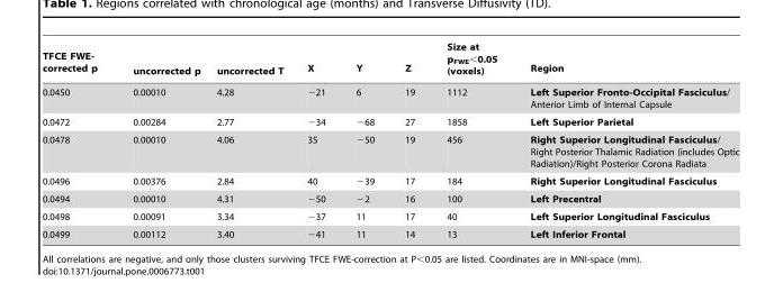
<table><thead><tr><td>TFCE FWE- corrected p</td><td>uncorrected p</td><td>uncorrected T</td><td>X</td><td>Y</td><td>Z</td><td>Size at p<sub>FWE</sub>&lt;0.05 (voxels)</td><td>Region</td></tr></thead><tbody><tr><td>0.0450</td><td>0.00010</td><td>4.28</td><td>−21</td><td>6</td><td>19</td><td>1112</td><td>Left Superior Fronto-Occipital Fasciculus/ Anterior Limb of Internal Capsule</td></tr><tr><td>0.0472</td><td>0.00284</td><td>2.77</td><td>−34</td><td>−68</td><td>27</td><td>1858</td><td>Left Superior Parietal</td></tr><tr><td>0.0478</td><td>0.00010</td><td>4.06</td><td>35</td><td>−50</td><td>19</td><td>456</td><td>Right Superior Longitudinal Fasciculus/ Right Posterior Thalamic Radiation (includes Optic Radiation)/Right Posterior Corona Radiata</td></tr><tr><td>0.0496</td><td>0.00376</td><td>2.84</td><td>40</td><td>−39</td><td>17</td><td>184</td><td>Right Superior Longitudinal Fasciculus</td></tr><tr><td>0.0494</td><td>0.00010</td><td>4.31</td><td>−50</td><td>−2</td><td>16</td><td>100</td><td>Left Precentral</td></tr><tr><td>0.0498</td><td>0.00091</td><td>3.34</td><td>−37</td><td>11</td><td>17</td><td>40</td><td>Left Superior Longitudinal Fasciculus</td></tr><tr><td>0.0499</td><td>0.00112</td><td>3.40</td><td>−41</td><td>11</td><td>14</td><td>13</td><td>Left Inferior Frontal</td></tr></tbody></table>